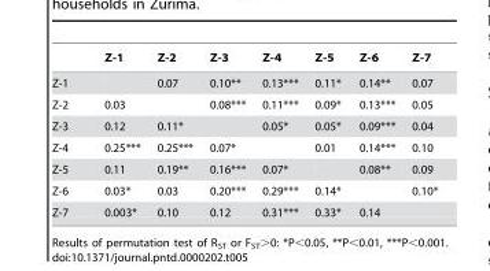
<table><thead><tr><td></td><td>Z-1</td><td>Z-2</td><td>Z-3</td><td>Z-4</td><td>Z-5</td><td>Z-6</td><td>Z-7</td></tr></thead><tbody><tr><td>Z-1</td><td></td><td>0.07</td><td>0.10**</td><td>0.13***</td><td>0.11*</td><td>0.14**</td><td>0.07</td></tr><tr><td>Z-2</td><td>0.03</td><td></td><td>0.08***</td><td>0.11***</td><td>0.09*</td><td>0.13***</td><td>0.05</td></tr><tr><td>Z-3</td><td>0.12</td><td>0.11*</td><td></td><td>0.05*</td><td>0.05*</td><td>0.09***</td><td>0.04</td></tr><tr><td>Z-4</td><td>0.25***</td><td>0.25***</td><td>0.07*</td><td></td><td>0.01</td><td>0.14***</td><td>0.10</td></tr><tr><td>Z-5</td><td>0.11</td><td>0.19**</td><td>0.16***</td><td>0.07*</td><td></td><td>0.08**</td><td>0.09</td></tr><tr><td>Z-6</td><td>0.03*</td><td>0.03</td><td>0.20***</td><td>0.29***</td><td>0.14*</td><td></td><td>0.10*</td></tr><tr><td>Z-7</td><td>0.003*</td><td>0.10</td><td>0.12</td><td>0.31***</td><td>0.33*</td><td>0.14</td><td></td></tr></tbody></table>